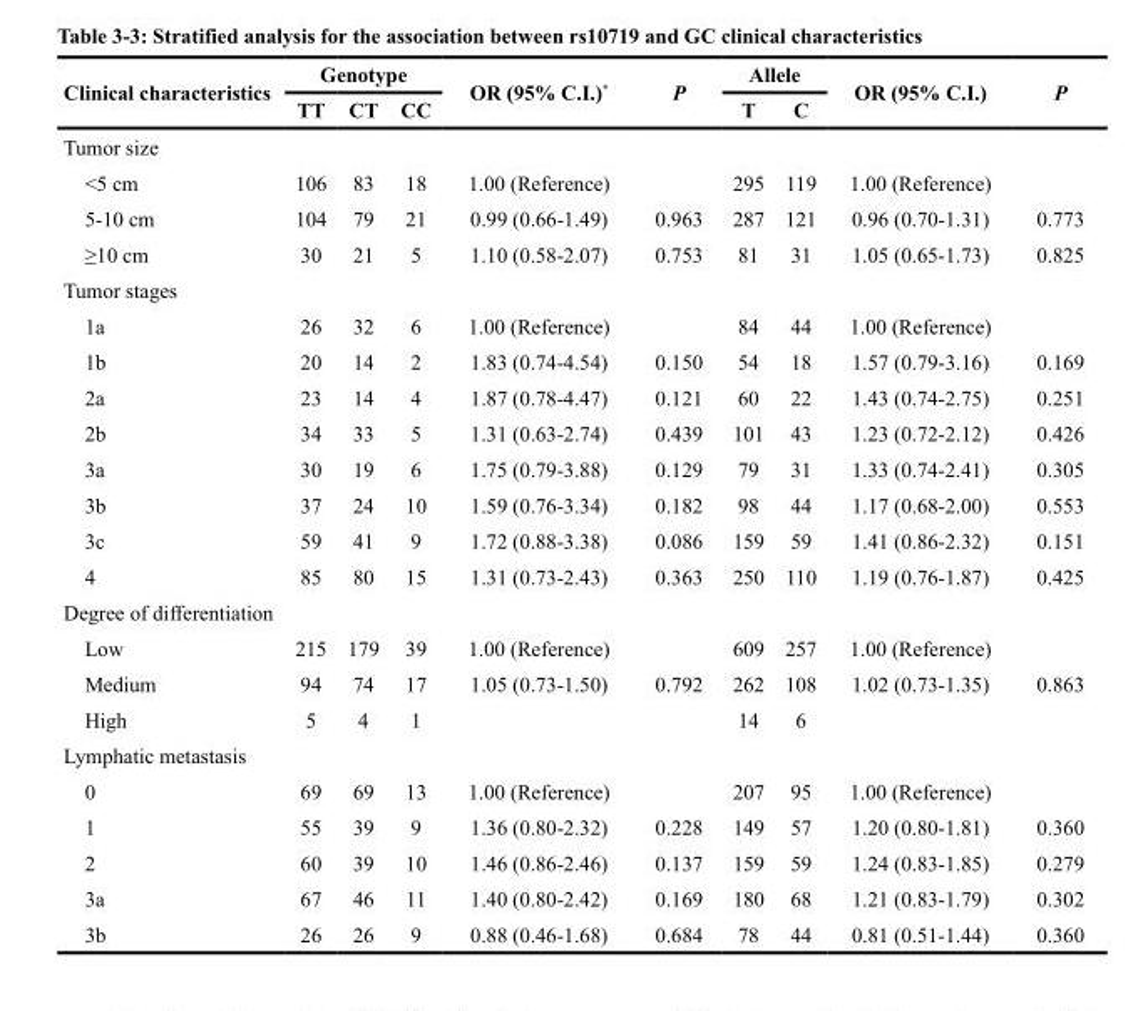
<table><thead><tr><td rowspan="2">Clinical characteristics</td><td colspan="3">Genotype</td><td rowspan="2">OR (95% C.I.)*</td><td rowspan="2">P</td><td colspan="2">Allele</td><td rowspan="2">OR (95% C.I.)</td><td rowspan="2">P</td></tr><tr><td>TT</td><td>CT</td><td>CC</td><td>T</td><td>C</td></tr></thead><tbody><tr><td colspan="10">Tumor size</td></tr><tr><td>&lt;5 cm</td><td>106</td><td>83</td><td>18</td><td>1.00 (Reference)</td><td></td><td>295</td><td>119</td><td>1.00 (Reference)</td><td></td></tr><tr><td>5-10 cm</td><td>104</td><td>79</td><td>21</td><td>0.99 (0.66-1.49)</td><td>0.963</td><td>287</td><td>121</td><td>0.96 (0.70-1.31)</td><td>0.773</td></tr><tr><td>≥10 cm</td><td>30</td><td>21</td><td>5</td><td>1.10 (0.58-2.07)</td><td>0.753</td><td>81</td><td>31</td><td>1.05 (0.65-1.73)</td><td>0.825</td></tr><tr><td colspan="10">Tumor stages</td></tr><tr><td>1a</td><td>26</td><td>32</td><td>6</td><td>1.00 (Reference)</td><td></td><td>84</td><td>44</td><td>1.00 (Reference)</td><td></td></tr><tr><td>1b</td><td>20</td><td>14</td><td>2</td><td>1.83 (0.74-4.54)</td><td>0.150</td><td>54</td><td>18</td><td>1.57 (0.79-3.16)</td><td>0.169</td></tr><tr><td>2a</td><td>23</td><td>14</td><td>4</td><td>1.87 (0.78-4.47)</td><td>0.121</td><td>60</td><td>22</td><td>1.43 (0.74-2.75)</td><td>0.251</td></tr><tr><td>2b</td><td>34</td><td>33</td><td>5</td><td>1.31 (0.63-2.74)</td><td>0.439</td><td>101</td><td>43</td><td>1.23 (0.72-2.12)</td><td>0.426</td></tr><tr><td>3a</td><td>30</td><td>19</td><td>6</td><td>1.75 (0.79-3.88)</td><td>0.129</td><td>79</td><td>31</td><td>1.33 (0.74-2.41)</td><td>0.305</td></tr><tr><td>3b</td><td>37</td><td>24</td><td>10</td><td>1.59 (0.76-3.34)</td><td>0.182</td><td>98</td><td>44</td><td>1.17 (0.68-2.00)</td><td>0.553</td></tr><tr><td>3c</td><td>59</td><td>41</td><td>9</td><td>1.72 (0.88-3.38)</td><td>0.086</td><td>159</td><td>59</td><td>1.41 (0.86-2.32)</td><td>0.151</td></tr><tr><td>4</td><td>85</td><td>80</td><td>15</td><td>1.31 (0.73-2.43)</td><td>0.363</td><td>250</td><td>110</td><td>1.19 (0.76-1.87)</td><td>0.425</td></tr><tr><td colspan="10">Degree of differentiation</td></tr><tr><td>Low</td><td>215</td><td>179</td><td>39</td><td>1.00 (Reference)</td><td></td><td>609</td><td>257</td><td>1.00 (Reference)</td><td></td></tr><tr><td>Medium</td><td>94</td><td>74</td><td>17</td><td>1.05 (0.73-1.50)</td><td>0.792</td><td>262</td><td>108</td><td>1.02 (0.73-1.35)</td><td>0.863</td></tr><tr><td>High</td><td>5</td><td>4</td><td>1</td><td></td><td></td><td>14</td><td>6</td><td></td><td></td></tr><tr><td colspan="10">Lymphatic metastasis</td></tr><tr><td>0</td><td>69</td><td>69</td><td>13</td><td>1.00 (Reference)</td><td></td><td>207</td><td>95</td><td>1.00 (Reference)</td><td></td></tr><tr><td>1</td><td>55</td><td>39</td><td>9</td><td>1.36 (0.80-2.32)</td><td>0.228</td><td>149</td><td>57</td><td>1.20 (0.80-1.81)</td><td>0.360</td></tr><tr><td>2</td><td>60</td><td>39</td><td>10</td><td>1.46 (0.86-2.46)</td><td>0.137</td><td>159</td><td>59</td><td>1.24 (0.83-1.85)</td><td>0.279</td></tr><tr><td>3a</td><td>67</td><td>46</td><td>11</td><td>1.40 (0.80-2.42)</td><td>0.169</td><td>180</td><td>68</td><td>1.21 (0.83-1.79)</td><td>0.302</td></tr><tr><td>3b</td><td>26</td><td>26</td><td>9</td><td>0.88 (0.46-1.68)</td><td>0.684</td><td>78</td><td>44</td><td>0.81 (0.51-1.44)</td><td>0.360</td></tr></tbody></table>